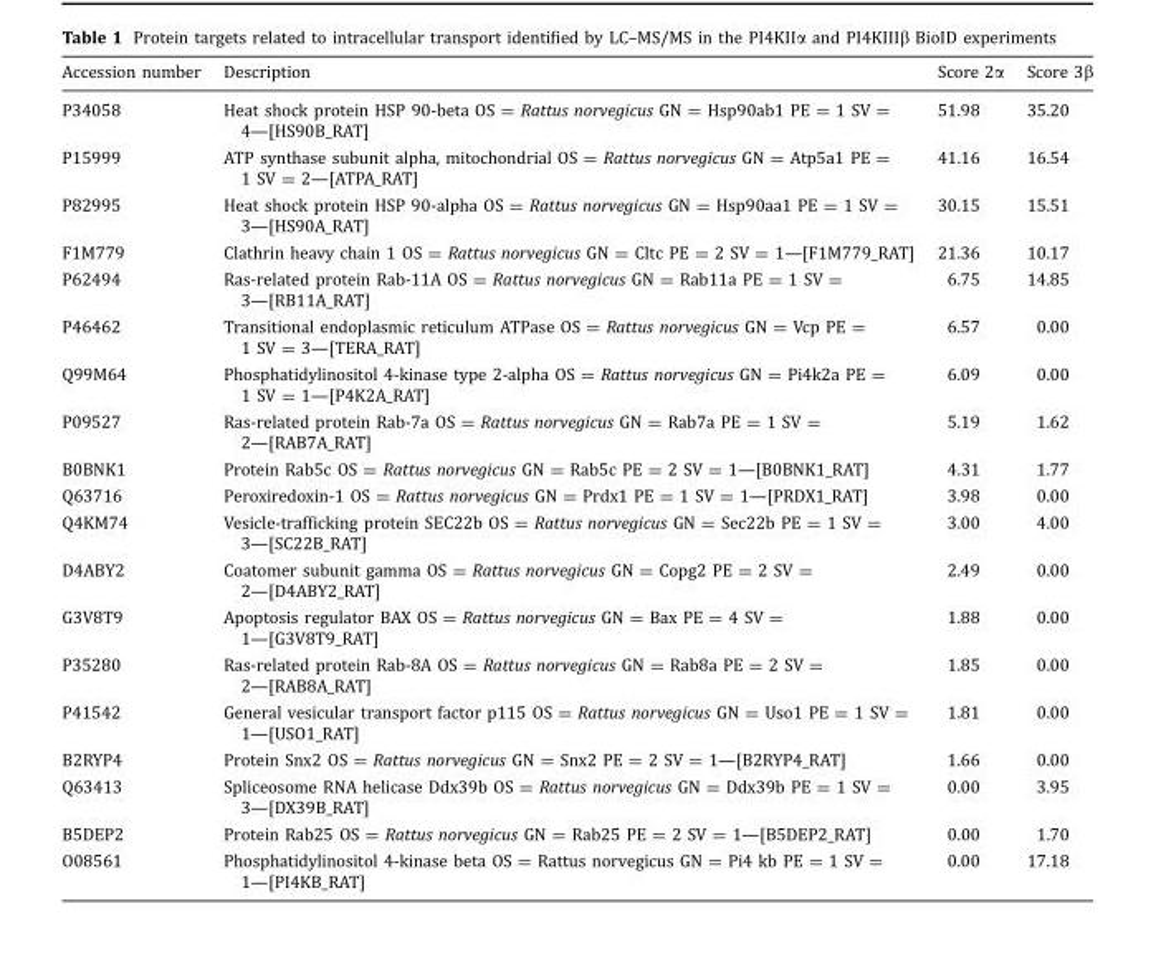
<table><thead><tr><td>Accession number</td><td>Description</td><td>Score 2α</td><td>Score 3β</td></tr></thead><tbody><tr><td>P34058</td><td>Heat shock protein HSP 90-beta OS = Rattus norvegicus GN = Hsp90ab1 PE = 1 SV = 4—[HS90B_RAT]</td><td>51.98</td><td>35.20</td></tr><tr><td>P15999</td><td>ATP synthase subunit alpha, mitochondrial OS = Rattus norvegicus GN = Atp5a1 PE = 1 SV = 2—[ATPA_RAT]</td><td>41.16</td><td>16.54</td></tr><tr><td>P82995</td><td>Heat shock protein HSP 90-alpha OS = Rattus norvegicus GN = Hsp90aa1 PE = 1 SV = 3—[HS90A_RAT]</td><td>30.15</td><td>15.51</td></tr><tr><td>F1M779</td><td>Clathrin heavy chain 1 OS = Rattus norvegicus GN = Cltc PE = 2 SV = 1—[F1M779_RAT]</td><td>21.36</td><td>10.17</td></tr><tr><td>P62494</td><td>Ras-related protein Rab-11A OS = Rattus norvegicus GN = Rab11a PE = 1 SV = 3—[RB11A_RAT]</td><td>6.75</td><td>14.85</td></tr><tr><td>P46462</td><td>Transitional endoplasmic reticulum ATPase OS = Rattus norvegicus GN = Vcp PE = 1 SV = 3—[TERA_RAT]</td><td>6.57</td><td>0.00</td></tr><tr><td>Q99M64</td><td>Phosphatidylinositol 4-kinase type 2-alpha OS = Rattus norvegicus GN = Pi4k2a PE = 1 SV = 1—[P4K2A_RAT]</td><td>6.09</td><td>0.00</td></tr><tr><td>P09527</td><td>Ras-related protein Rab-7a OS = Rattus norvegicus GN = Rab7a PE = 1 SV = 2—[RAB7A_RAT]</td><td>5.19</td><td>1.62</td></tr><tr><td>B0BNK1</td><td>Protein Rab5c OS = Rattus norvegicus GN = Rab5c PE = 2 SV = 1—[B0BNK1_RAT]</td><td>4.31</td><td>1.77</td></tr><tr><td>Q63716</td><td>Peroxiredoxin-1 OS = Rattus norvegicus GN = Prdx1 PE = 1 SV = 1—[PRDX1_RAT]</td><td>3.98</td><td>0.00</td></tr><tr><td>Q4KM74</td><td>Vesicle-trafficking protein SEC22b OS = Rattus norvegicus GN = Sec22b PE = 1 SV = 3—[SC22B_RAT]</td><td>3.00</td><td>4.00</td></tr><tr><td>D4ABY2</td><td>Coatomer subunit gamma OS = Rattus norvegicus GN = Copg2 PE = 2 SV = 2—[D4ABY2_RAT]</td><td>2.49</td><td>0.00</td></tr><tr><td>G3V8T9</td><td>Apoptosis regulator BAX OS = Rattus norvegicus GN = Bax PE = 4 SV = 1—[G3V8T9_RAT]</td><td>1.88</td><td>0.00</td></tr><tr><td>P35280</td><td>Ras-related protein Rab-8A OS = Rattus norvegicus GN = Rab8a PE = 2 SV = 2—[RAB8A_RAT]</td><td>1.85</td><td>0.00</td></tr><tr><td>P41542</td><td>General vesicular transport factor p115 OS = Rattus norvegicus GN = Uso1 PE = 1 SV = 1—[USO1_RAT]</td><td>1.81</td><td>0.00</td></tr><tr><td>B2RYP4</td><td>Protein Snx2 OS = Rattus norvegicus GN = Snx2 PE = 2 SV = 1—[B2RYP4_RAT]</td><td>1.66</td><td>0.00</td></tr><tr><td>Q63413</td><td>Spliceosome RNA helicase Ddx39b OS = Rattus norvegicus GN = Ddx39b PE = 1 SV = 3—[DX39B_RAT]</td><td>0.00</td><td>3.95</td></tr><tr><td>B5DEP2</td><td>Protein Rab25 OS = Rattus norvegicus GN = Rab25 PE = 2 SV = 1—[B5DEP2_RAT]</td><td>0.00</td><td>1.70</td></tr><tr><td>O08561</td><td>Phosphatidylinositol 4-kinase beta OS = Rattus norvegicus GN = Pi4 kb PE = 1 SV = 1—[PI4KB_RAT]</td><td>0.00</td><td>17.18</td></tr></tbody></table>